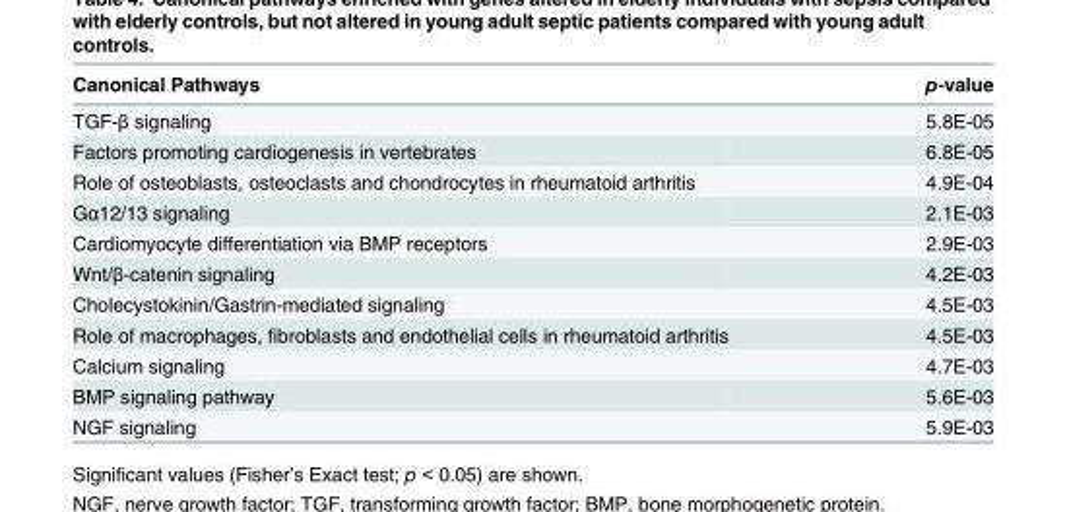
<table><thead><tr><td>Canonical Pathways</td><td>p-value</td></tr></thead><tbody><tr><td>TGF-β signaling</td><td>5.8E-05</td></tr><tr><td>Factors promoting cardiogenesis in vertebrates</td><td>6.8E-05</td></tr><tr><td>Role of osteoblasts, osteoclasts and chondrocytes in rheumatoid arthritis</td><td>4.9E-04</td></tr><tr><td>Gα12/13 signaling</td><td>2.1E-03</td></tr><tr><td>Cardiomyocyte differentiation via BMP receptors</td><td>2.9E-03</td></tr><tr><td>Wnt/β-catenin signaling</td><td>4.2E-03</td></tr><tr><td>Cholecystokinin/Gastrin-mediated signaling</td><td>4.5E-03</td></tr><tr><td>Role of macrophages, fibroblasts and endothelial cells in rheumatoid arthritis</td><td>4.5E-03</td></tr><tr><td>Calcium signaling</td><td>4.7E-03</td></tr><tr><td>BMP signaling pathway</td><td>5.6E-03</td></tr><tr><td>NGF signaling</td><td>5.9E-03</td></tr></tbody></table>